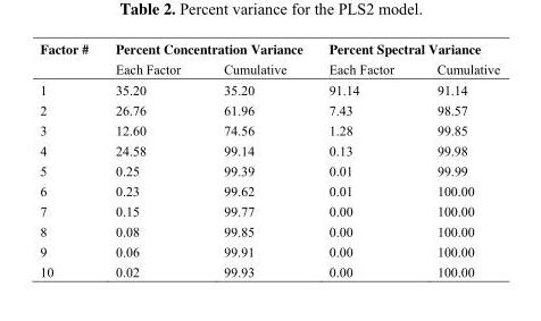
<table><thead><tr><td rowspan="2">Factor #</td><td colspan="2">Percent Concentration Variance</td><td colspan="2">Percent Spectral Variance</td></tr><tr><td>Each Factor</td><td>Cumulative</td><td>Each Factor</td><td>Cumulative</td></tr></thead><tbody><tr><td>1</td><td>35.20</td><td>35.20</td><td>91.14</td><td>91.14</td></tr><tr><td>2</td><td>26.76</td><td>61.96</td><td>7.43</td><td>98.57</td></tr><tr><td>3</td><td>12.60</td><td>74.56</td><td>1.28</td><td>99.85</td></tr><tr><td>4</td><td>24.58</td><td>99.14</td><td>0.13</td><td>99.98</td></tr><tr><td>5</td><td>0.25</td><td>99.39</td><td>0.01</td><td>99.99</td></tr><tr><td>6</td><td>0.23</td><td>99.62</td><td>0.01</td><td>100.00</td></tr><tr><td>7</td><td>0.15</td><td>99.77</td><td>0.00</td><td>100.00</td></tr><tr><td>8</td><td>0.08</td><td>99.85</td><td>0.00</td><td>100.00</td></tr><tr><td>9</td><td>0.06</td><td>99.91</td><td>0.00</td><td>100.00</td></tr><tr><td>10</td><td>0.02</td><td>99.93</td><td>0.00</td><td>100.00</td></tr></tbody></table>